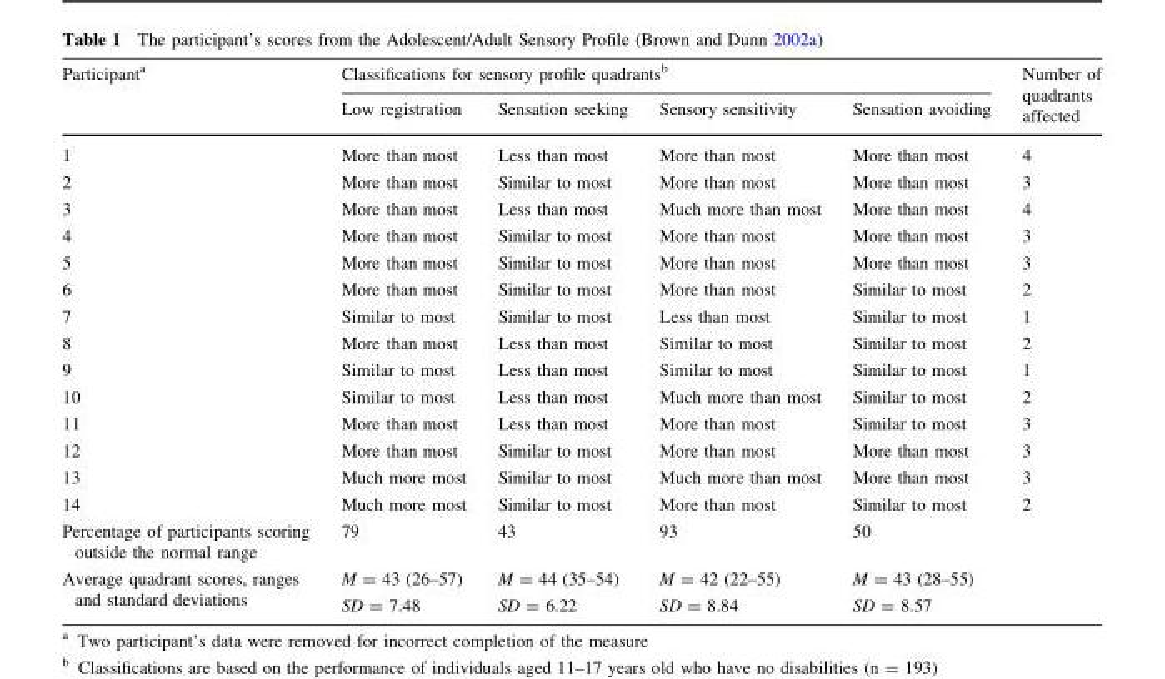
<table><thead><tr><td rowspan="2">Participant<sup>a</sup></td><td colspan="4">Classifications for sensory profile quadrants<sup>b</sup></td><td rowspan="2">Number of quadrants affected</td></tr><tr><td>Low registration</td><td>Sensation seeking</td><td>Sensory sensitivity</td><td>Sensation avoiding</td></tr></thead><tbody><tr><td>1</td><td>More than most</td><td>Less than most</td><td>More than most</td><td>More than most</td><td>4</td></tr><tr><td>2</td><td>More than most</td><td>Similar to most</td><td>More than most</td><td>More than most</td><td>3</td></tr><tr><td>3</td><td>More than most</td><td>Less than most</td><td>Much more than most</td><td>More than most</td><td>4</td></tr><tr><td>4</td><td>More than most</td><td>Similar to most</td><td>More than most</td><td>More than most</td><td>3</td></tr><tr><td>5</td><td>More than most</td><td>Similar to most</td><td>More than most</td><td>More than most</td><td>3</td></tr><tr><td>6</td><td>More than most</td><td>Similar to most</td><td>More than most</td><td>Similar to most</td><td>2</td></tr><tr><td>7</td><td>Similar to most</td><td>Similar to most</td><td>Less than most</td><td>Similar to most</td><td>1</td></tr><tr><td>8</td><td>More than most</td><td>Less than most</td><td>Similar to most</td><td>Similar to most</td><td>2</td></tr><tr><td>9</td><td>Similar to most</td><td>Less than most</td><td>Similar to most</td><td>Similar to most</td><td>1</td></tr><tr><td>10</td><td>Similar to most</td><td>Less than most</td><td>Much more than most</td><td>Similar to most</td><td>2</td></tr><tr><td>11</td><td>More than most</td><td>Less than most</td><td>More than most</td><td>Similar to most</td><td>3</td></tr><tr><td>12</td><td>More than most</td><td>Similar to most</td><td>More than most</td><td>More than most</td><td>3</td></tr><tr><td>13</td><td>Much more most</td><td>Similar to most</td><td>Much more than most</td><td>More than most</td><td>3</td></tr><tr><td>14</td><td>Much more most</td><td>Similar to most</td><td>More than most</td><td>Similar to most</td><td>2</td></tr><tr><td>Percentage of participants scoring outside the normal range</td><td>79</td><td>43</td><td>93</td><td>50</td><td></td></tr><tr><td rowspan="2">Average quadrant scores, ranges and standard deviations</td><td>M = 43 (26–57)</td><td>M = 44 (35–54)</td><td>M = 42 (22–55)</td><td>M = 43 (28–55)</td><td></td></tr><tr><td>SD = 7.48</td><td>SD = 6.22</td><td>SD = 8.84</td><td>SD = 8.57</td><td></td></tr></tbody></table>